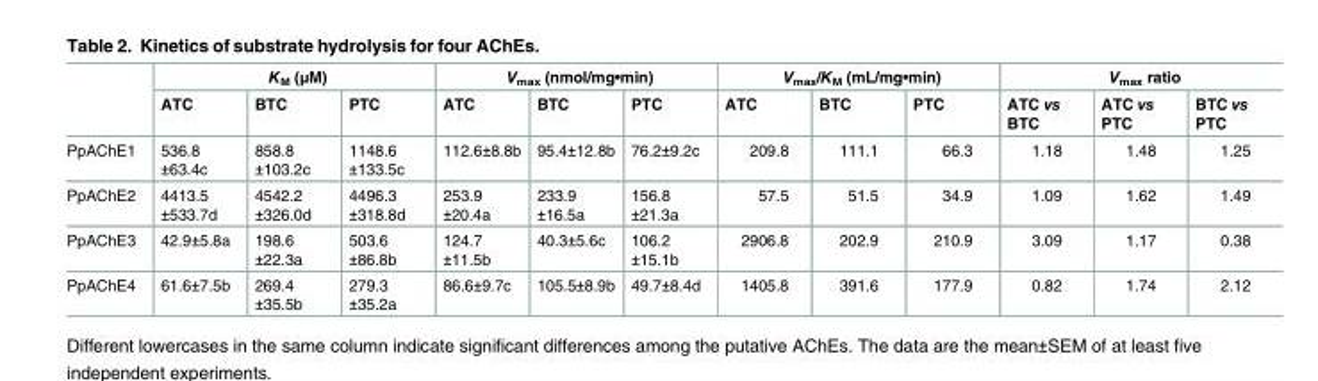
<table><thead><tr><td rowspan="2"></td><td colspan="3">K<sub>M</sub> (μM)</td><td colspan="3">V<sub>max</sub> (nmol/mg•min)</td><td colspan="3">V<sub>max</sub>/K<sub>M</sub> (mL/mg•min)</td><td colspan="3">V<sub>max</sub> ratio</td></tr><tr><td>ATC</td><td>BTC</td><td>PTC</td><td>ATC</td><td>BTC</td><td>PTC</td><td>ATC</td><td>BTC</td><td>PTC</td><td>ATC vs BTC</td><td>ATC vs PTC</td><td>BTC vs PTC</td></tr></thead><tbody><tr><td>PpAChE1</td><td>536.8 ±63.4c</td><td>858.8 ±103.2c</td><td>1148.6 ±133.5c</td><td>112.6±8.8b</td><td>95.4±12.8b</td><td>76.2±9.2c</td><td>209.8</td><td>111.1</td><td>66.3</td><td>1.18</td><td>1.48</td><td>1.25</td></tr><tr><td>PpAChE2</td><td>4413.5 ±533.7d</td><td>4542.2 ±326.0d</td><td>4496.3 ±318.8d</td><td>253.9 ±20.4a</td><td>233.9 ±16.5a</td><td>156.8 ±21.3a</td><td>57.5</td><td>51.5</td><td>34.9</td><td>1.09</td><td>1.62</td><td>1.49</td></tr><tr><td>PpAChE3</td><td>42.9±5.8a</td><td>198.6 ±22.3a</td><td>503.6 ±86.8b</td><td>124.7 ±11.5b</td><td>40.3±5.6c</td><td>106.2 ±15.1b</td><td>2906.8</td><td>202.9</td><td>210.9</td><td>3.09</td><td>1.17</td><td>0.38</td></tr><tr><td>PpAChE4</td><td>61.6±7.5b</td><td>269.4 ±35.5b</td><td>279.3 ±35.2a</td><td>86.6±9.7c</td><td>105.5±8.9b</td><td>49.7±8.4d</td><td>1405.8</td><td>391.6</td><td>177.9</td><td>0.82</td><td>1.74</td><td>2.12</td></tr></tbody></table>